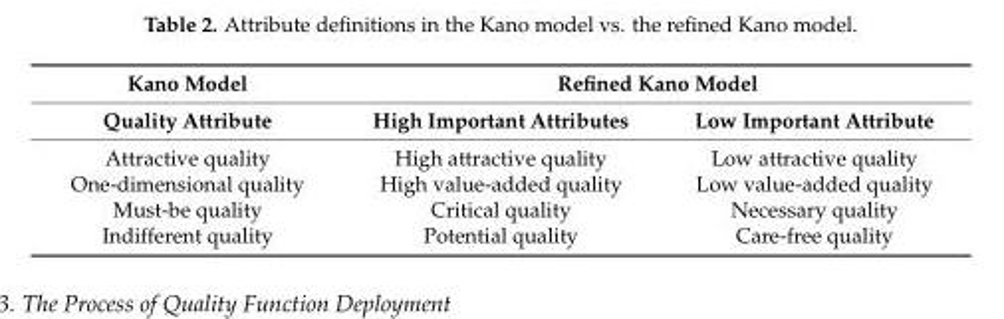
<table><thead><tr><td rowspan="2">Kano Model Quality Attribute</td><td colspan="2">Refined Kano Model</td></tr><tr><td>High Important Attributes</td><td>Low Important Attribute</td></tr></thead><tbody><tr><td>Attractive quality</td><td>High attractive quality</td><td>Low attractive quality</td></tr><tr><td>One-dimensional quality</td><td>High value-added quality</td><td>Low value-added quality</td></tr><tr><td>Must-be quality</td><td>Critical quality</td><td>Necessary quality</td></tr><tr><td>Indifferent quality</td><td>Potential quality</td><td>Care-free quality</td></tr></tbody></table>